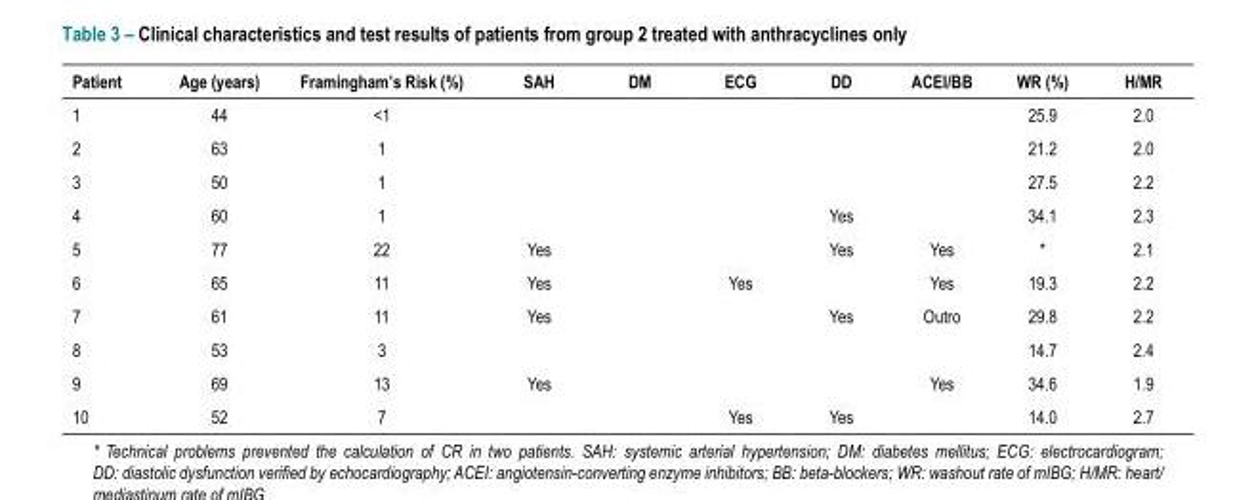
<table><thead><tr><td>Patient</td><td>Age (years)</td><td>Framingham’s Risk (%)</td><td>SAH</td><td>DM</td><td>ECG</td><td>DD</td><td>ACEI/BB</td><td>WR (%)</td><td>H/MR</td></tr></thead><tbody><tr><td>1</td><td>44</td><td>&lt;1</td><td></td><td></td><td></td><td></td><td></td><td>25.9</td><td>2.0</td></tr><tr><td>2</td><td>63</td><td>1</td><td></td><td></td><td></td><td></td><td></td><td>21.2</td><td>2.0</td></tr><tr><td>3</td><td>50</td><td>1</td><td></td><td></td><td></td><td></td><td></td><td>27.5</td><td>2.2</td></tr><tr><td>4</td><td>60</td><td>1</td><td></td><td></td><td></td><td>Yes</td><td></td><td>34.1</td><td>2.3</td></tr><tr><td>5</td><td>77</td><td>22</td><td>Yes</td><td></td><td></td><td>Yes</td><td>Yes</td><td>*</td><td>2.1</td></tr><tr><td>6</td><td>65</td><td>11</td><td>Yes</td><td></td><td>Yes</td><td></td><td>Yes</td><td>19.3</td><td>2.2</td></tr><tr><td>7</td><td>61</td><td>11</td><td>Yes</td><td></td><td></td><td>Yes</td><td>Outro</td><td>29.8</td><td>2.2</td></tr><tr><td>8</td><td>53</td><td>3</td><td></td><td></td><td></td><td></td><td></td><td>14.7</td><td>2.4</td></tr><tr><td>9</td><td>69</td><td>13</td><td>Yes</td><td></td><td></td><td></td><td>Yes</td><td>34.6</td><td>1.9</td></tr><tr><td>10</td><td>52</td><td>7</td><td></td><td></td><td>Yes</td><td>Yes</td><td></td><td>14.0</td><td>2.7</td></tr></tbody></table>